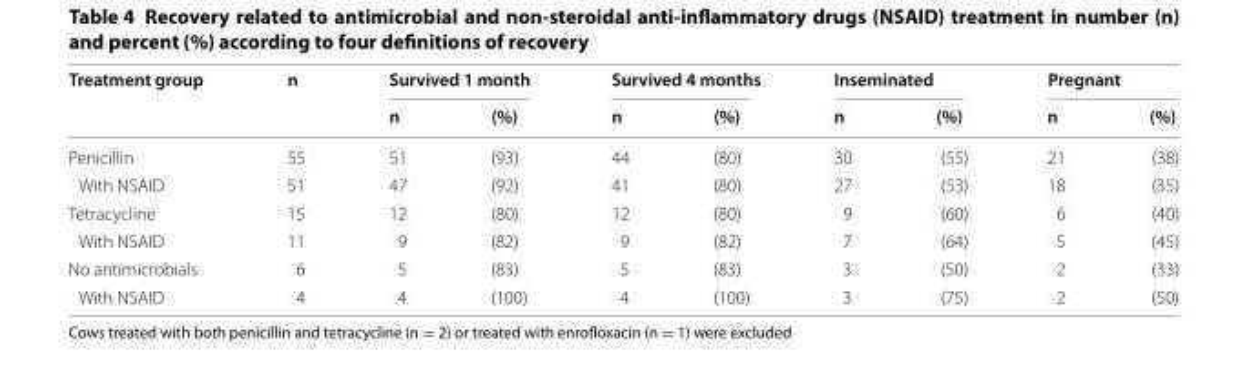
<table><thead><tr><td rowspan="2">Treatment group</td><td rowspan="2">n</td><td colspan="2">Survived 1 month</td><td colspan="2">Survived 4 months</td><td colspan="2">Inseminated</td><td colspan="2">Pregnant</td></tr><tr><td>n</td><td>(%)</td><td>n</td><td>(%)</td><td>n</td><td>(%)</td><td>n</td><td>(%)</td></tr></thead><tbody><tr><td>Penicillin</td><td>55</td><td>51</td><td>(93)</td><td>44</td><td>(80)</td><td>30</td><td>(55)</td><td>21</td><td>(38)</td></tr><tr><td>With NSAID</td><td>51</td><td>47</td><td>(92)</td><td>41</td><td>(80)</td><td>27</td><td>(53)</td><td>18</td><td>(35)</td></tr><tr><td>Tetracycline</td><td>15</td><td>12</td><td>(80)</td><td>12</td><td>(80)</td><td>9</td><td>(60)</td><td>6</td><td>(40)</td></tr><tr><td>With NSAID</td><td>11</td><td>9</td><td>(82)</td><td>9</td><td>(82)</td><td>7</td><td>(64)</td><td>5</td><td>(45)</td></tr><tr><td>No antimicrobials</td><td>6</td><td>5</td><td>(83)</td><td>5</td><td>(83)</td><td>3</td><td>(50)</td><td>2</td><td>(33)</td></tr><tr><td>With NSAID</td><td>4</td><td>4</td><td>(100)</td><td>4</td><td>(100)</td><td>3</td><td>(75)</td><td>2</td><td>(50)</td></tr></tbody></table>